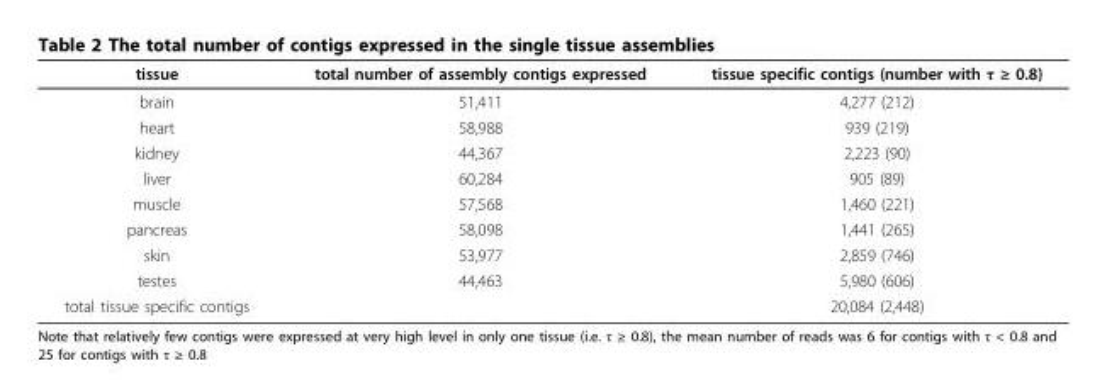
<table><thead><tr><td>tissue</td><td>total number of assembly contigs expressed</td><td>tissue specific contigs (number with τ ≥ 0.8)</td></tr></thead><tbody><tr><td>brain</td><td>51,411</td><td>4,277 (212)</td></tr><tr><td>heart</td><td>58,988</td><td>939 (219)</td></tr><tr><td>kidney</td><td>44,367</td><td>2,223 (90)</td></tr><tr><td>liver</td><td>60,284</td><td>905 (89)</td></tr><tr><td>muscle</td><td>57,568</td><td>1,460 (221)</td></tr><tr><td>pancreas</td><td>58,098</td><td>1,441 (265)</td></tr><tr><td>skin</td><td>53,977</td><td>2,859 (746)</td></tr><tr><td>testes</td><td>44,463</td><td>5,980 (606)</td></tr><tr><td>total tissue specific contigs</td><td></td><td>20,084 (2,448)</td></tr></tbody></table>